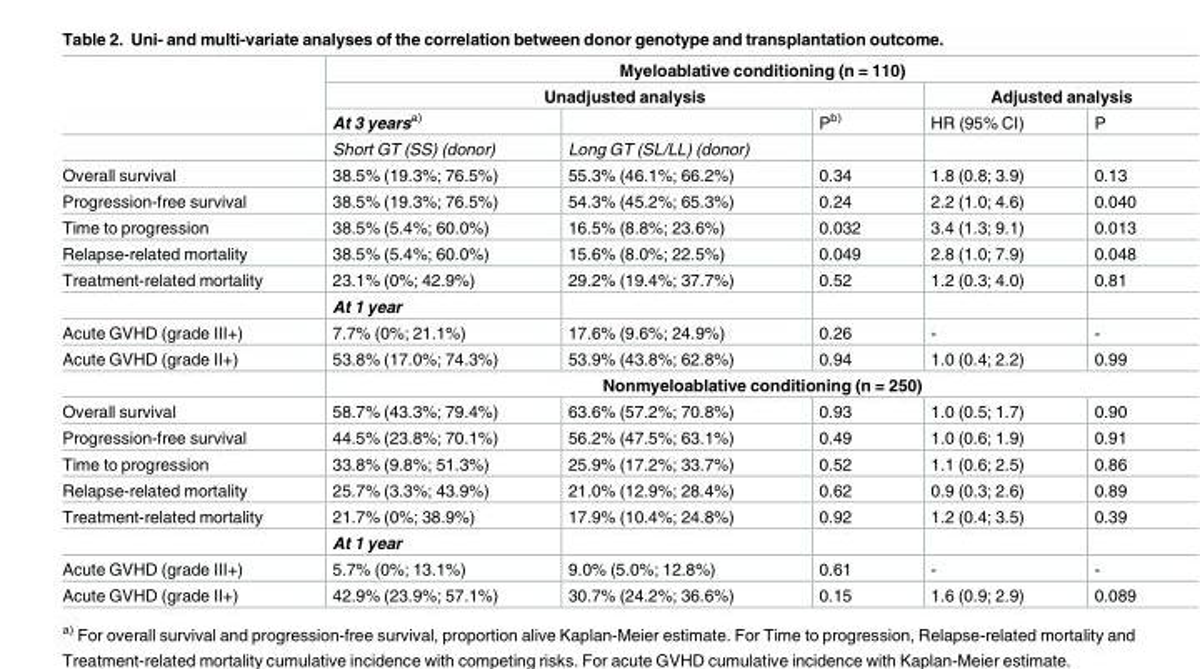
<table><thead><tr><td rowspan="3"></td><td colspan="5">Myeloablative conditioning (n = 110)</td></tr><tr><td colspan="3">Unadjusted analysis</td><td colspan="2">Adjusted analysis</td></tr><tr><td>At 3 years<sup>a)</sup></td><td></td><td>P<sup>b)</sup></td><td>HR (95% CI)</td><td>P</td></tr></thead><tbody><tr><td></td><td>Short GT (SS) (donor)</td><td>Long GT (SL/LL) (donor)</td><td></td><td></td><td></td></tr><tr><td>Overall survival</td><td>38.5% (19.3%; 76.5%)</td><td>55.3% (46.1%; 66.2%)</td><td>0.34</td><td>1.8 (0.8; 3.9)</td><td>0.13</td></tr><tr><td>Progression-free survival</td><td>38.5% (19.3%; 76.5%)</td><td>54.3% (45.2%; 65.3%)</td><td>0.24</td><td>2.2 (1.0; 4.6)</td><td>0.040</td></tr><tr><td>Time to progression</td><td>38.5% (5.4%; 60.0%)</td><td>16.5% (8.8%; 23.6%)</td><td>0.032</td><td>3.4 (1.3; 9.1)</td><td>0.013</td></tr><tr><td>Relapse-related mortality</td><td>38.5% (5.4%; 60.0%)</td><td>15.6% (8.0%; 22.5%)</td><td>0.049</td><td>2.8 (1.0; 7.9)</td><td>0.048</td></tr><tr><td rowspan="2">Treatment-related mortality</td><td>23.1% (0%; 42.9%)</td><td>29.2% (19.4%; 37.7%)</td><td>0.52</td><td>1.2 (0.3; 4.0)</td><td>0.81</td></tr><tr><td>At 1 year</td><td></td><td></td><td></td><td></td></tr><tr><td>Acute GVHD (grade III+)</td><td>7.7% (0%; 21.1%)</td><td>17.6% (9.6%; 24.9%)</td><td>0.26</td><td>-</td><td>-</td></tr><tr><td rowspan="2">Acute GVHD (grade II+)</td><td>53.8% (17.0%; 74.3%)</td><td>53.9% (43.8%; 62.8%)</td><td>0.94</td><td>1.0 (0.4; 2.2)</td><td>0.99</td></tr><tr><td colspan="5">Nonmyeloablative conditioning (n = 250)</td></tr><tr><td>Overall survival</td><td>58.7% (43.3%; 79.4%)</td><td>63.6% (57.2%; 70.8%)</td><td>0.93</td><td>1.0 (0.5; 1.7)</td><td>0.90</td></tr><tr><td>Progression-free survival</td><td>44.5% (23.8%; 70.1%)</td><td>56.2% (47.5%; 63.1%)</td><td>0.49</td><td>1.0 (0.6; 1.9)</td><td>0.91</td></tr><tr><td>Time to progression</td><td>33.8% (9.8%; 51.3%)</td><td>25.9% (17.2%; 33.7%)</td><td>0.52</td><td>1.1 (0.6; 2.5)</td><td>0.86</td></tr><tr><td>Relapse-related mortality</td><td>25.7% (3.3%; 43.9%)</td><td>21.0% (12.9%; 28.4%)</td><td>0.62</td><td>0.9 (0.3; 2.6)</td><td>0.89</td></tr><tr><td rowspan="2">Treatment-related mortality</td><td>21.7% (0%; 38.9%)</td><td>17.9% (10.4%; 24.8%)</td><td>0.92</td><td>1.2 (0.4; 3.5)</td><td>0.39</td></tr><tr><td>At 1 year</td><td></td><td></td><td></td><td></td></tr><tr><td>Acute GVHD (grade III+)</td><td>5.7% (0%; 13.1%)</td><td>9.0% (5.0%; 12.8%)</td><td>0.61</td><td>-</td><td>-</td></tr><tr><td>Acute GVHD (grade II+)</td><td>42.9% (23.9%; 57.1%)</td><td>30.7% (24.2%; 36.6%)</td><td>0.15</td><td>1.6 (0.9; 2.9)</td><td>0.089</td></tr></tbody></table>